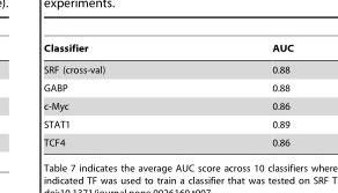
<table><thead><tr><td>Classifier</td><td>AUC</td></tr></thead><tbody><tr><td>SRF (cross-val)</td><td>0.88</td></tr><tr><td>GABP</td><td>0.88</td></tr><tr><td>c-Myc</td><td>0.86</td></tr><tr><td>STAT1</td><td>0.89</td></tr><tr><td>TCF4</td><td>0.86</td></tr></tbody></table>